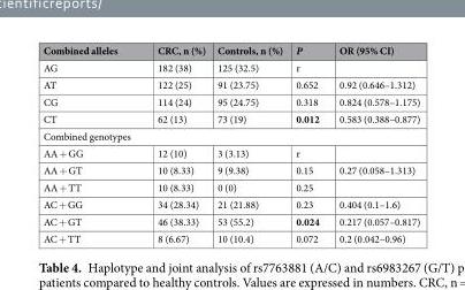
<table><thead><tr><td>Combined alleles</td><td>CRC, n (%)</td><td>Controls, n (%)</td><td>P</td><td>OR (95% CI)</td></tr></thead><tbody><tr><td>AG</td><td>182 (38)</td><td>125 (32.5)</td><td>r</td><td></td></tr><tr><td>AT</td><td>122 (25)</td><td>91 (23.75)</td><td>0.652</td><td>0.92 (0.646–1.312)</td></tr><tr><td>CG</td><td>114 (24)</td><td>95 (24.75)</td><td>0.318</td><td>0.824 (0.578–1.175)</td></tr><tr><td>CT</td><td>62 (13)</td><td>73 (19)</td><td>0.012</td><td>0.583 (0.388–0.877)</td></tr><tr><td colspan="5">Combined genotypes</td></tr><tr><td>AA + GG</td><td>12 (10)</td><td>3 (3.13)</td><td>r</td><td></td></tr><tr><td>AA + GT</td><td>10 (8.33)</td><td>9 (9.38)</td><td>0.15</td><td>0.27 (0.058–1.313)</td></tr><tr><td>AA + TT</td><td>10 (8.33)</td><td>0 (0)</td><td>0.25</td><td></td></tr><tr><td>AC + GG</td><td>34 (28.34)</td><td>21 (21.88)</td><td>0.23</td><td>0.404 (0.1–1.6)</td></tr><tr><td>AC + GT</td><td>46 (38.33)</td><td>53 (55.2)</td><td>0.024</td><td>0.217 (0.057–0.817)</td></tr><tr><td>AC + TT</td><td>8 (6.67)</td><td>10 (10.4)</td><td>0.072</td><td>0.2 (0.042–0.96)</td></tr></tbody></table>